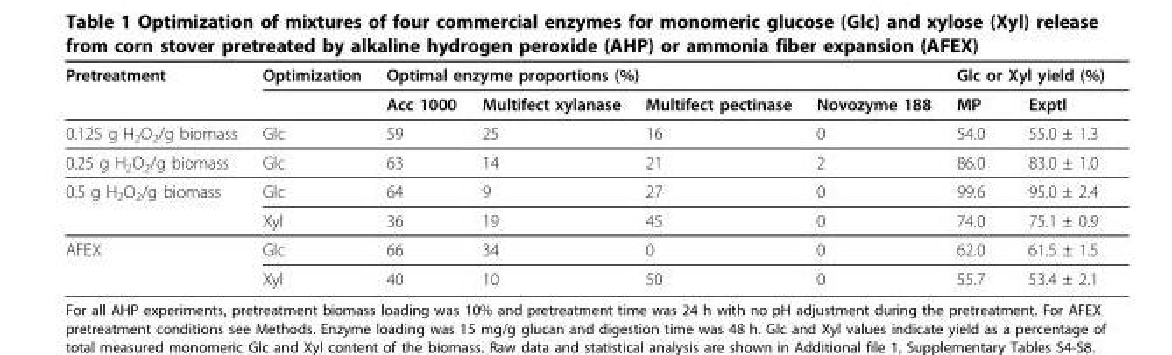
<table><thead><tr><td rowspan="2">Pretreatment</td><td rowspan="2">Optimization</td><td colspan="4">Optimal enzyme proportions (%)</td><td colspan="2">Glc or Xyl yield (%)</td></tr><tr><td>Acc 1000</td><td>Multifect xylanase</td><td>Multifect pectinase</td><td>Novozyme 188</td><td>MP</td><td>Exptl</td></tr></thead><tbody><tr><td>0.125 g H<sub>2</sub>O<sub>2</sub>/g biomass</td><td>Glc</td><td>59</td><td>25</td><td>16</td><td>0</td><td>54.0</td><td>55.0 ± 1.3</td></tr><tr><td>0.25 g H<sub>2</sub>O<sub>2</sub>/g biomass</td><td>Glc</td><td>63</td><td>14</td><td>21</td><td>2</td><td>86.0</td><td>83.0 ± 1.0</td></tr><tr><td rowspan="2">0.5 g H<sub>2</sub>O<sub>2</sub>/g biomass</td><td>Glc</td><td>64</td><td>9</td><td>27</td><td>0</td><td>99.6</td><td>95.0 ± 2.4</td></tr><tr><td>Xyl</td><td>36</td><td>19</td><td>45</td><td>0</td><td>74.0</td><td>75.1 ± 0.9</td></tr><tr><td rowspan="2">AFEX</td><td>Glc</td><td>66</td><td>34</td><td>0</td><td>0</td><td>62.0</td><td>61.5 ± 1.5</td></tr><tr><td>Xyl</td><td>40</td><td>10</td><td>50</td><td>0</td><td>55.7</td><td>53.4 ± 2.1</td></tr></tbody></table>